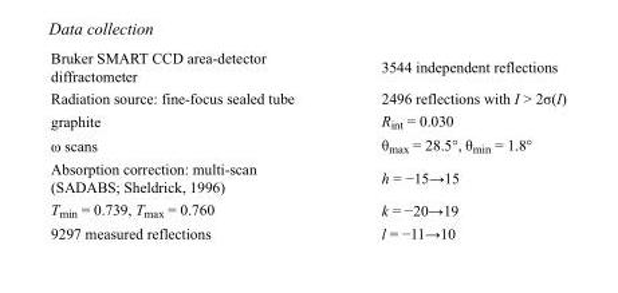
<table><tbody><tr><td>Bruker SMART CCD area-detector diffractometer</td><td>3544 independent reflections</td></tr><tr><td>Radiation source: fine-focus sealed tube</td><td>2496 reflections with I &gt; 2σ(I)</td></tr><tr><td>graphite</td><td>R<sub>int</sub> = 0.030</td></tr><tr><td>ω scans</td><td>θ<sub>max</sub> = 28.5°, θ<sub>min</sub> = 1.8°</td></tr><tr><td>Absorption correction: multi-scan (SADABS; Sheldrick, 1996)</td><td>h = −15→15</td></tr><tr><td>T<sub>min</sub> = 0.739, T<sub>max</sub> = 0.760</td><td>k = −20→19</td></tr><tr><td>9297 measured reflections</td><td>l = −11→10</td></tr></tbody></table>